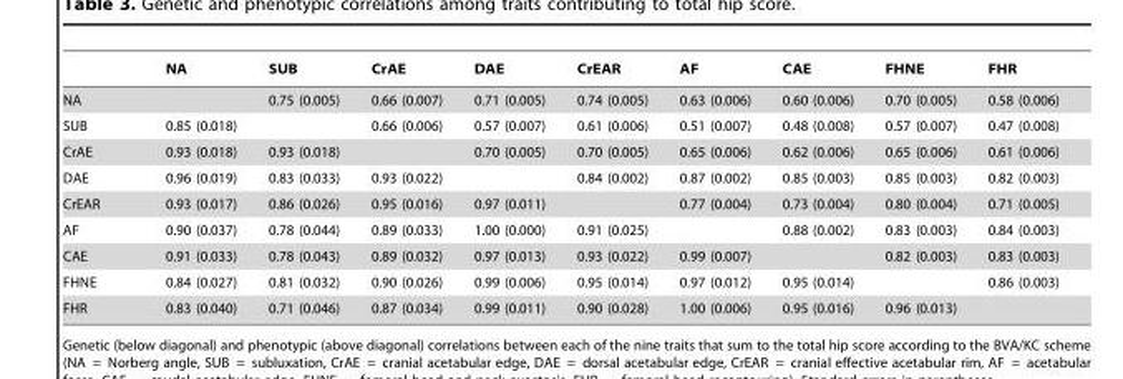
<table><thead><tr><td></td><td>NA</td><td>SUB</td><td>CrAE</td><td>DAE</td><td>CrEAR</td><td>AF</td><td>CAE</td><td>FHNE</td><td>FHR</td></tr></thead><tbody><tr><td>NA</td><td></td><td>0.75 (0.005)</td><td>0.66 (0.007)</td><td>0.71 (0.005)</td><td>0.74 (0.005)</td><td>0.63 (0.006)</td><td>0.60 (0.006)</td><td>0.70 (0.005)</td><td>0.58 (0.006)</td></tr><tr><td>SUB</td><td>0.85 (0.018)</td><td></td><td>0.66 (0.006)</td><td>0.57 (0.007)</td><td>0.61 (0.006)</td><td>0.51 (0.007)</td><td>0.48 (0.008)</td><td>0.57 (0.007)</td><td>0.47 (0.008)</td></tr><tr><td>CrAE</td><td>0.93 (0.018)</td><td>0.93 (0.018)</td><td></td><td>0.70 (0.005)</td><td>0.70 (0.005)</td><td>0.65 (0.006)</td><td>0.62 (0.006)</td><td>0.65 (0.006)</td><td>0.61 (0.006)</td></tr><tr><td>DAE</td><td>0.96 (0.019)</td><td>0.83 (0.033)</td><td>0.93 (0.022)</td><td></td><td>0.84 (0.002)</td><td>0.87 (0.002)</td><td>0.85 (0.003)</td><td>0.85 (0.003)</td><td>0.82 (0.003)</td></tr><tr><td>CrEAR</td><td>0.93 (0.017)</td><td>0.86 (0.026)</td><td>0.95 (0.016)</td><td>0.97 (0.011)</td><td></td><td>0.77 (0.004)</td><td>0.73 (0.004)</td><td>0.80 (0.004)</td><td>0.71 (0.005)</td></tr><tr><td>AF</td><td>0.90 (0.037)</td><td>0.78 (0.044)</td><td>0.89 (0.033)</td><td>1.00 (0.000)</td><td>0.91 (0.025)</td><td></td><td>0.88 (0.002)</td><td>0.83 (0.003)</td><td>0.84 (0.003)</td></tr><tr><td>CAE</td><td>0.91 (0.033)</td><td>0.78 (0.043)</td><td>0.89 (0.032)</td><td>0.97 (0.013)</td><td>0.93 (0.022)</td><td>0.99 (0.007)</td><td></td><td>0.82 (0.003)</td><td>0.83 (0.003)</td></tr><tr><td>FHNE</td><td>0.84 (0.027)</td><td>0.81 (0.032)</td><td>0.90 (0.026)</td><td>0.99 (0.006)</td><td>0.95 (0.014)</td><td>0.97 (0.012)</td><td>0.95 (0.014)</td><td></td><td>0.86 (0.003)</td></tr><tr><td>FHR</td><td>0.83 (0.040)</td><td>0.71 (0.046)</td><td>0.87 (0.034)</td><td>0.99 (0.011)</td><td>0.90 (0.028)</td><td>1.00 (0.006)</td><td>0.95 (0.016)</td><td>0.96 (0.013)</td><td></td></tr></tbody></table>